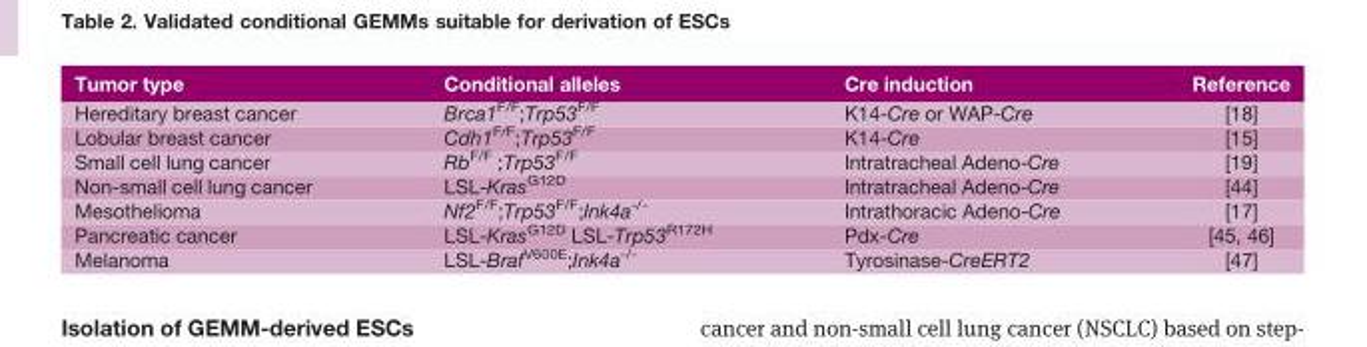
<table><thead><tr><td>Tumor type</td><td>Conditional alleles</td><td>Cre induction</td><td>Reference</td></tr></thead><tbody><tr><td>Hereditary breast cancer</td><td>Brca1<sup>F/F</sup>;Trp53<sup>F/F</sup></td><td>K14-Cre or WAP-Cre</td><td>[18]</td></tr><tr><td>Lobular breast cancer</td><td>Cdh1<sup>F/F</sup>;Trp53<sup>F/F</sup></td><td>K14-Cre</td><td>[15]</td></tr><tr><td>Small cell lung cancer</td><td>Rb<sup>F/F</sup> ;Trp53<sup>F/F</sup></td><td>Intratracheal Adeno-Cre</td><td>[19]</td></tr><tr><td>Non-small cell lung cancer</td><td>LSL-Kras<sup>G12D</sup></td><td>Intratracheal Adeno-Cre</td><td>[44]</td></tr><tr><td>Mesothelioma</td><td>Nf2<sup>F/F</sup>;Trp53<sup>F/F</sup>;Ink4a<sup>-/-</sup></td><td>Intrathoracic Adeno-Cre</td><td>[17]</td></tr><tr><td>Pancreatic cancer</td><td>LSL-Kras<sup>G12D</sup> LSL-Trp53<sup>R172H</sup></td><td>Pdx-Cre</td><td>[45, 46]</td></tr><tr><td>Melanoma</td><td>LSL-Braf<sup>V600E</sup>;Ink4a<sup>-/-</sup></td><td>Tyrosinase-CreERT2</td><td>[47]</td></tr></tbody></table>